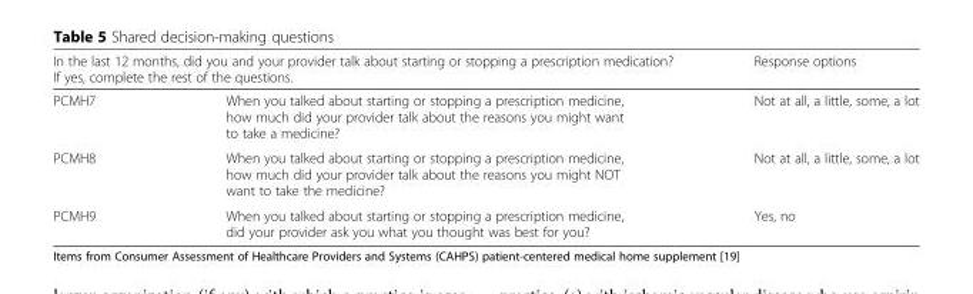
<table><thead><tr><td colspan="2">In the last 12 months, did you and your provider talk about starting or stopping a prescription medication? If yes, complete the rest of the questions.</td><td rowspan="2">Response options Not at all, a little, some, a lot</td></tr><tr><td>PCMH7</td><td>When you talked about starting or stopping a prescription medicine, how much did your provider talk about the reasons you might want to take a medicine?</td></tr></thead><tbody><tr><td>PCMH8</td><td>When you talked about starting or stopping a prescription medicine, how much did your provider talk about the reasons you might NOT want to take the medicine?</td><td>Not at all, a little, some, a lot</td></tr><tr><td>PCMH9</td><td>When you talked about starting or stopping a prescription medicine, did your provider ask you what you thought was best for you?</td><td>Yes, no</td></tr></tbody></table>